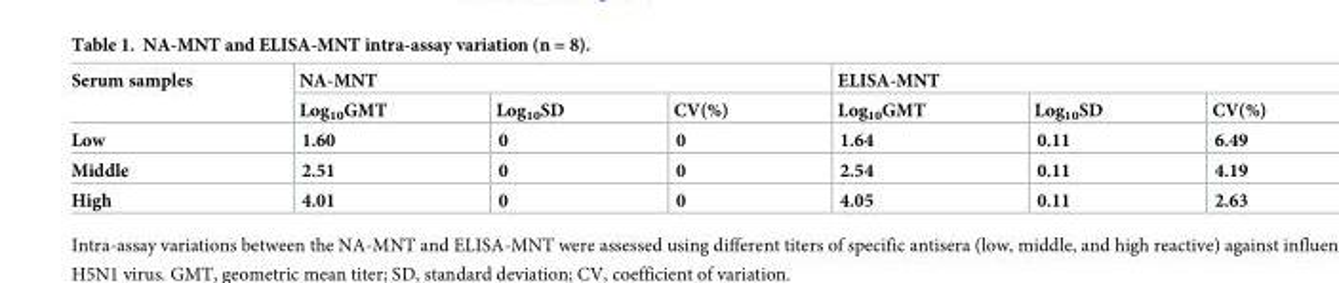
<table><thead><tr><td rowspan="2">Serum samples</td><td colspan="3">NA-MNT</td><td colspan="3">ELISA-MNT</td></tr><tr><td>Log<sub>10</sub>GMT</td><td>Log<sub>10</sub>SD</td><td>CV(%)</td><td>Log<sub>10</sub>GMT</td><td>Log<sub>10</sub>SD</td><td>CV(%)</td></tr></thead><tbody><tr><td>Low</td><td>1.60</td><td>0</td><td>0</td><td>1.64</td><td>0.11</td><td>6.49</td></tr><tr><td>Middle</td><td>2.51</td><td>0</td><td>0</td><td>2.54</td><td>0.11</td><td>4.19</td></tr><tr><td>High</td><td>4.01</td><td>0</td><td>0</td><td>4.05</td><td>0.11</td><td>2.63</td></tr></tbody></table>